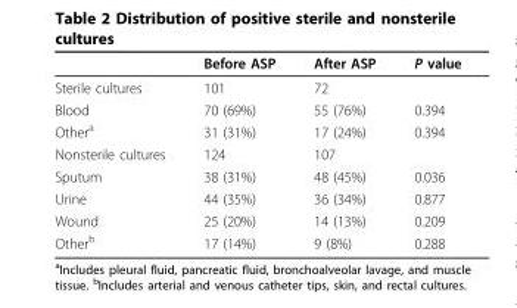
<table><thead><tr><td></td><td>Before ASP</td><td>After ASP</td><td>P value</td></tr></thead><tbody><tr><td>Sterile cultures</td><td>101</td><td>72</td><td></td></tr><tr><td>Blood</td><td>70 (69%)</td><td>55 (76%)</td><td>0.394</td></tr><tr><td>Other<sup>a</sup></td><td>31 (31%)</td><td>17 (24%)</td><td>0.394</td></tr><tr><td>Nonsterile cultures</td><td>124</td><td>107</td><td></td></tr><tr><td>Sputum</td><td>38 (31%)</td><td>48 (45%)</td><td>0.036</td></tr><tr><td>Urine</td><td>44 (35%)</td><td>36 (34%)</td><td>0.877</td></tr><tr><td>Wound</td><td>25 (20%)</td><td>14 (13%)</td><td>0.209</td></tr><tr><td>Other<sup>b</sup></td><td>17 (14%)</td><td>9 (8%)</td><td>0.288</td></tr></tbody></table>